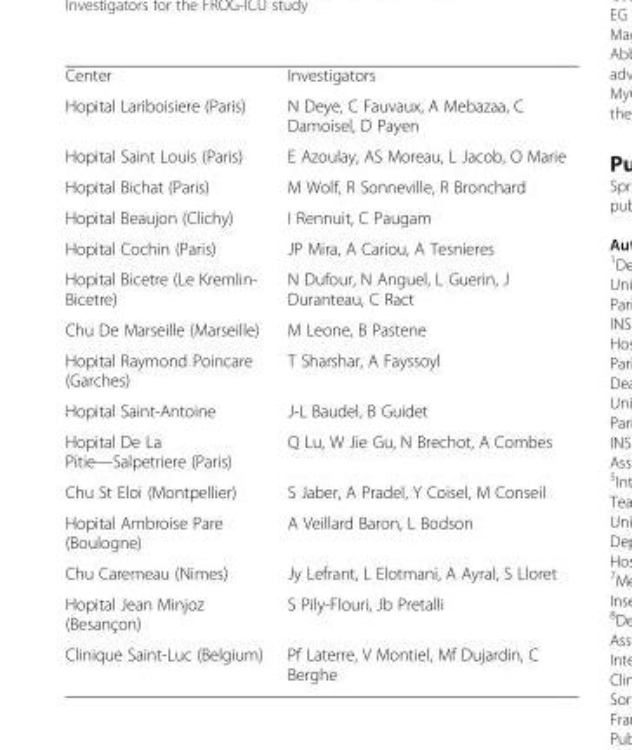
<table><tbody><tr><td>Center</td><td>Investigators</td></tr><tr><td>Hopital Lariboisiere (Paris)</td><td>N Deye, C Fauvaux, A Mebazaa, C Damoisel, D Payen</td></tr><tr><td>Hopital Saint Louis (Paris)</td><td>E Azoulay, AS Moreau, L Jacob, O Marie</td></tr><tr><td>Hopital Bichat (Paris)</td><td>M Wolf, R Sonneville, R Bronchard</td></tr><tr><td>Hopital Beaujon (Clichy)</td><td>I Rennuit, C Paugam</td></tr><tr><td>Hopital Cochin (Paris)</td><td>JP Mira, A Cariou, A Tesnieres</td></tr><tr><td>Hopital Bicetre (Le Kremlin- Bicetre)</td><td>N Dufour, N Anguel, L Guerin, J Duranteau, C Ract</td></tr><tr><td>Chu De Marseille (Marseille)</td><td>M Leone, B Pastene</td></tr><tr><td>Hopital Raymond Poincare (Garches)</td><td>T Sharshar, A Fayssoyl</td></tr><tr><td>Hopital Saint-Antoine</td><td>J-L Baudel, B Guidet</td></tr><tr><td>Hopital De La Pitie—Salpetriere (Paris)</td><td>Q Lu, W Jie Gu, N Brechot, A Combes</td></tr><tr><td>Chu St Eloi (Montpellier)</td><td>S Jaber, A Pradel, Y Coisel, M Conseil</td></tr><tr><td>Hopital Ambroise Pare (Boulogne)</td><td>A Veillard Baron, L Bodson</td></tr><tr><td>Chu Caremeau (Nimes)</td><td>Jy Lefrant, L Elotmani, A Ayral, S Lloret</td></tr><tr><td>Hopital Jean Minjoz (Besançon)</td><td>S Pily-Flouri, Jb Pretalli</td></tr><tr><td>Clinique Saint-Luc (Belgium)</td><td>Pf Laterre, V Montiel, Mf Dujardin, C Berghe</td></tr></tbody></table>